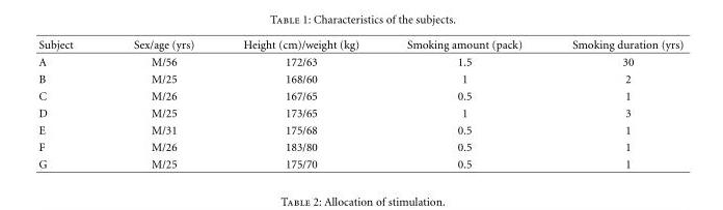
<table><thead><tr><td>Subject</td><td>Sex/age (yrs)</td><td>Height (cm)/weight (kg)</td><td>Smoking amount (pack)</td><td>Smoking duration (yrs)</td></tr></thead><tbody><tr><td>A</td><td>M/56</td><td>172/63</td><td>1.5</td><td>30</td></tr><tr><td>B</td><td>M/25</td><td>168/60</td><td>1</td><td>2</td></tr><tr><td>C</td><td>M/26</td><td>167/65</td><td>0.5</td><td>1</td></tr><tr><td>D</td><td>M/25</td><td>173/65</td><td>1</td><td>3</td></tr><tr><td>E</td><td>M/31</td><td>175/68</td><td>0.5</td><td>1</td></tr><tr><td>F</td><td>M/26</td><td>183/80</td><td>0.5</td><td>1</td></tr><tr><td>G</td><td>M/25</td><td>175/70</td><td>0.5</td><td>1</td></tr></tbody></table>